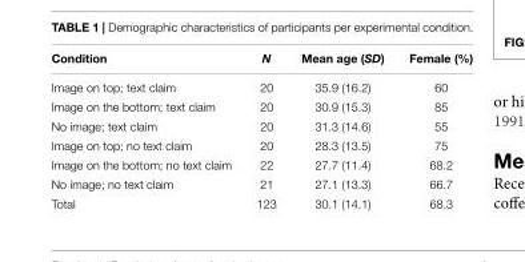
<table><thead><tr><td>Condition</td><td>N</td><td>Mean age (SD)</td><td>Female (%)</td></tr></thead><tbody><tr><td>Image on top; text claim</td><td>20</td><td>35.9 (16.2)</td><td>60</td></tr><tr><td>Image on the bottom; text claim</td><td>20</td><td>30.9 (15.3)</td><td>85</td></tr><tr><td>No image; text claim</td><td>20</td><td>31.3 (14.6)</td><td>55</td></tr><tr><td>Image on top; no text claim</td><td>20</td><td>28.3 (13.5)</td><td>75</td></tr><tr><td>Image on the bottom; no text claim</td><td>22</td><td>27.7 (11.4)</td><td>68.2</td></tr><tr><td>No image; no text claim</td><td>21</td><td>27.1 (13.3)</td><td>66.7</td></tr><tr><td>Total</td><td>123</td><td>30.1 (14.1)</td><td>68.3</td></tr></tbody></table>